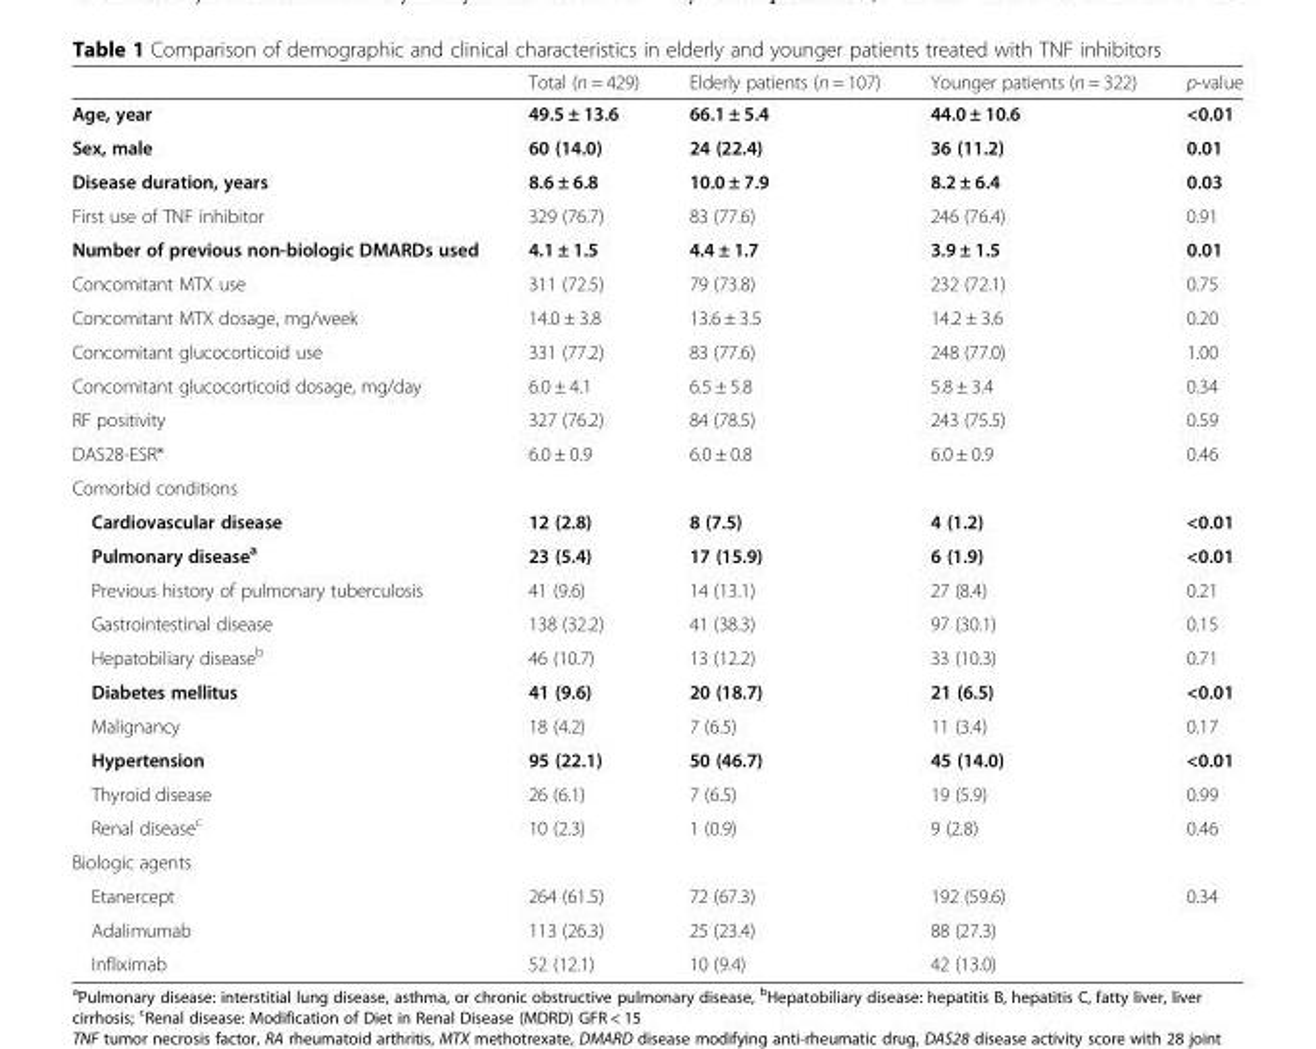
<table><thead><tr><td></td><td>Total (n = 429)</td><td>Elderly patients (n = 107)</td><td>Younger patients (n = 322)</td><td>p-value</td></tr></thead><tbody><tr><td>Age, year</td><td>49.5 ± 13.6</td><td>66.1 ± 5.4</td><td>44.0 ± 10.6</td><td>&lt;0.01</td></tr><tr><td>Sex, male</td><td>60 (14.0)</td><td>24 (22.4)</td><td>36 (11.2)</td><td>0.01</td></tr><tr><td>Disease duration, years</td><td>8.6 ± 6.8</td><td>10.0 ± 7.9</td><td>8.2 ± 6.4</td><td>0.03</td></tr><tr><td>First use of TNF inhibitor</td><td>329 (76.7)</td><td>83 (77.6)</td><td>246 (76.4)</td><td>0.91</td></tr><tr><td>Number of previous non-biologic DMARDs used</td><td>4.1 ± 1.5</td><td>4.4 ± 1.7</td><td>3.9 ± 1.5</td><td>0.01</td></tr><tr><td>Concomitant MTX use</td><td>311 (72.5)</td><td>79 (73.8)</td><td>232 (72.1)</td><td>0.75</td></tr><tr><td>Concomitant MTX dosage, mg/week</td><td>14.0 ± 3.8</td><td>13.6 ± 3.5</td><td>14.2 ± 3.6</td><td>0.20</td></tr><tr><td>Concomitant glucocorticoid use</td><td>331 (77.2)</td><td>83 (77.6)</td><td>248 (77.0)</td><td>1.00</td></tr><tr><td>Concomitant glucocorticoid dosage, mg/day</td><td>6.0 ± 4.1</td><td>6.5 ± 5.8</td><td>5.8 ± 3.4</td><td>0.34</td></tr><tr><td>RF positivity</td><td>327 (76.2)</td><td>84 (78.5)</td><td>243 (75.5)</td><td>0.59</td></tr><tr><td>DAS28-ESR*</td><td>6.0 ± 0.9</td><td>6.0 ± 0.8</td><td>6.0 ± 0.9</td><td>0.46</td></tr><tr><td colspan="5">Comorbid conditions</td></tr><tr><td>Cardiovascular disease</td><td>12 (2.8)</td><td>8 (7.5)</td><td>4 (1.2)</td><td>&lt;0.01</td></tr><tr><td>Pulmonary disease<sup>a</sup></td><td>23 (5.4)</td><td>17 (15.9)</td><td>6 (1.9)</td><td>&lt;0.01</td></tr><tr><td>Previous history of pulmonary tuberculosis</td><td>41 (9.6)</td><td>14 (13.1)</td><td>27 (8.4)</td><td>0.21</td></tr><tr><td>Gastrointestinal disease</td><td>138 (32.2)</td><td>41 (38.3)</td><td>97 (30.1)</td><td>0.15</td></tr><tr><td>Hepatobiliary disease<sup>b</sup></td><td>46 (10.7)</td><td>13 (12.2)</td><td>33 (10.3)</td><td>0.71</td></tr><tr><td>Diabetes mellitus</td><td>41 (9.6)</td><td>20 (18.7)</td><td>21 (6.5)</td><td>&lt;0.01</td></tr><tr><td>Malignancy</td><td>18 (4.2)</td><td>7 (6.5)</td><td>11 (3.4)</td><td>0.17</td></tr><tr><td>Hypertension</td><td>95 (22.1)</td><td>50 (46.7)</td><td>45 (14.0)</td><td>&lt;0.01</td></tr><tr><td>Thyroid disease</td><td>26 (6.1)</td><td>7 (6.5)</td><td>19 (5.9)</td><td>0.99</td></tr><tr><td>Renal disease<sup>c</sup></td><td>10 (2.3)</td><td>1 (0.9)</td><td>9 (2.8)</td><td>0.46</td></tr><tr><td colspan="5">Biologic agents</td></tr><tr><td>Etanercept</td><td>264 (61.5)</td><td>72 (67.3)</td><td>192 (59.6)</td><td>0.34</td></tr><tr><td>Adalimumab</td><td>113 (26.3)</td><td>25 (23.4)</td><td>88 (27.3)</td><td></td></tr><tr><td>Infliximab</td><td>52 (12.1)</td><td>10 (9.4)</td><td>42 (13.0)</td><td></td></tr></tbody></table>